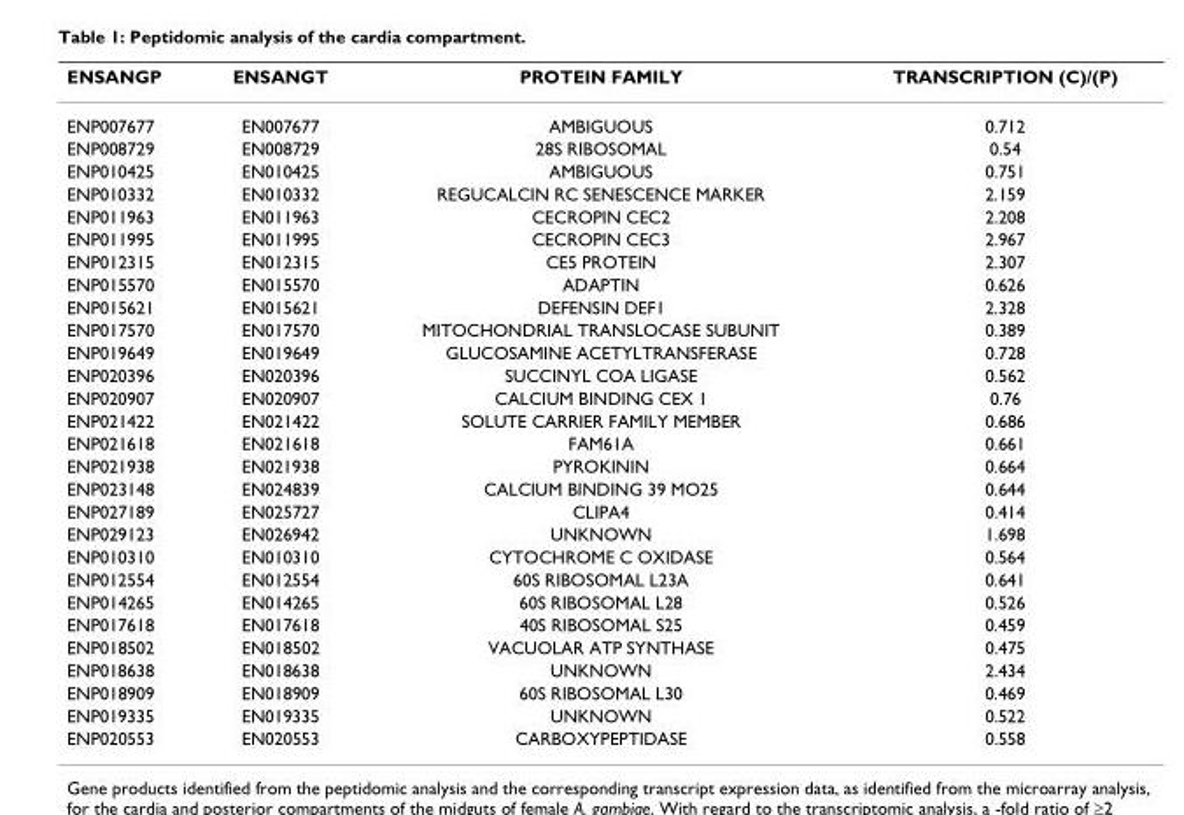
<table><thead><tr><td>ENSANGP</td><td>ENSANGT</td><td>PROTEIN FAMILY</td><td>TRANSCRIPTION (C)/(P)</td></tr></thead><tbody><tr><td>ENP007677</td><td>EN007677</td><td>AMBIGUOUS</td><td>0.712</td></tr><tr><td>ENP008729</td><td>EN008729</td><td>28S RIBOSOMAL</td><td>0.54</td></tr><tr><td>ENP010425</td><td>EN010425</td><td>AMBIGUOUS</td><td>0.751</td></tr><tr><td>ENP010332</td><td>EN010332</td><td>REGUCALCIN RC SENESCENCE MARKER</td><td>2.159</td></tr><tr><td>ENP011963</td><td>EN011963</td><td>CECROPIN CEC2</td><td>2.208</td></tr><tr><td>ENP011995</td><td>EN011995</td><td>CECROPIN CEC3</td><td>2.967</td></tr><tr><td>ENP012315</td><td>EN012315</td><td>CE5 PROTEIN</td><td>2.307</td></tr><tr><td>ENP015570</td><td>EN015570</td><td>ADAPTIN</td><td>0.626</td></tr><tr><td>ENP015621</td><td>EN015621</td><td>DEFENSIN DEF1</td><td>2.328</td></tr><tr><td>ENP017570</td><td>EN017570</td><td>MITOCHONDRIAL TRANSLOCASE SUBUNIT</td><td>0.389</td></tr><tr><td>ENP019649</td><td>EN019649</td><td>GLUCOSAMINE ACETYLTRANSFERASE</td><td>0.728</td></tr><tr><td>ENP020396</td><td>EN020396</td><td>SUCCINYL COA LIGASE</td><td>0.562</td></tr><tr><td>ENP020907</td><td>EN020907</td><td>CALCIUM BINDING CEX 1</td><td>0.76</td></tr><tr><td>ENP021422</td><td>EN021422</td><td>SOLUTE CARRIER FAMILY MEMBER</td><td>0.686</td></tr><tr><td>ENP021618</td><td>EN021618</td><td>FAM61A</td><td>0.661</td></tr><tr><td>ENP021938</td><td>EN021938</td><td>PYROKININ</td><td>0.664</td></tr><tr><td>ENP023148</td><td>EN024839</td><td>CALCIUM BINDING 39 MO25</td><td>0.644</td></tr><tr><td>ENP027189</td><td>EN025727</td><td>CLIPA4</td><td>0.414</td></tr><tr><td>ENP029123</td><td>EN026942</td><td>UNKNOWN</td><td>1.698</td></tr><tr><td>ENP010310</td><td>EN010310</td><td>CYTOCHROME C OXIDASE</td><td>0.564</td></tr><tr><td>ENP012554</td><td>EN012554</td><td>60S RIBOSOMAL L23A</td><td>0.641</td></tr><tr><td>ENP014265</td><td>EN014265</td><td>60S RIBOSOMAL L28</td><td>0.526</td></tr><tr><td>ENP017618</td><td>EN017618</td><td>40S RIBOSOMAL S25</td><td>0.459</td></tr><tr><td>ENP018502</td><td>EN018502</td><td>VACUOLAR ATP SYNTHASE</td><td>0.475</td></tr><tr><td>ENP018638</td><td>EN018638</td><td>UNKNOWN</td><td>2.434</td></tr><tr><td>ENP018909</td><td>EN018909</td><td>60S RIBOSOMAL L30</td><td>0.469</td></tr><tr><td>ENP019335</td><td>EN019335</td><td>UNKNOWN</td><td>0.522</td></tr><tr><td>ENP020553</td><td>EN020553</td><td>CARBOXYPEPTIDASE</td><td>0.558</td></tr></tbody></table>